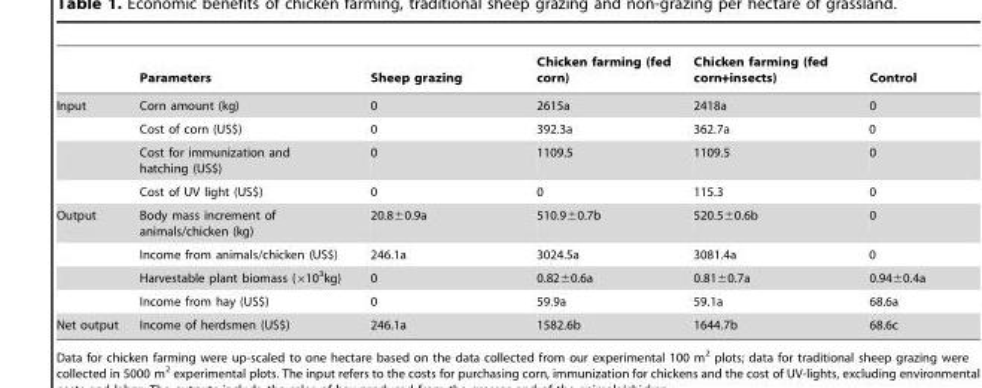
<table><thead><tr><td></td><td>Parameters</td><td>Sheep grazing</td><td>Chicken farming (fed corn)</td><td>Chicken farming (fed corn+insects)</td><td>Control</td></tr></thead><tbody><tr><td rowspan="4">Input</td><td>Corn amount (kg)</td><td>0</td><td>2615a</td><td>2418a</td><td>0</td></tr><tr><td>Cost of corn (US$)</td><td>0</td><td>392.3a</td><td>362.7a</td><td>0</td></tr><tr><td>Cost for immunization and hatching (US$)</td><td>0</td><td>1109.5</td><td>1109.5</td><td>0</td></tr><tr><td>Cost of UV light (US$)</td><td>0</td><td>0</td><td>115.3</td><td>0</td></tr><tr><td rowspan="4">Output</td><td>Body mass increment of animals/chicken (kg)</td><td>20.8±0.9a</td><td>510.9±0.7b</td><td>520.5±0.6b</td><td>0</td></tr><tr><td>Income from animals/chicken (US$)</td><td>246.1a</td><td>3024.5a</td><td>3081.4a</td><td>0</td></tr><tr><td>Harvestable plant biomass (×10<sup>3</sup>kg)</td><td>0</td><td>0.82±0.6a</td><td>0.81±0.7a</td><td>0.94±0.4a</td></tr><tr><td>Income from hay (US$)</td><td>0</td><td>59.9a</td><td>59.1a</td><td>68.6a</td></tr><tr><td>Net output</td><td>Income of herdsmen (US$)</td><td>246.1a</td><td>1582.6b</td><td>1644.7b</td><td>68.6c</td></tr></tbody></table>